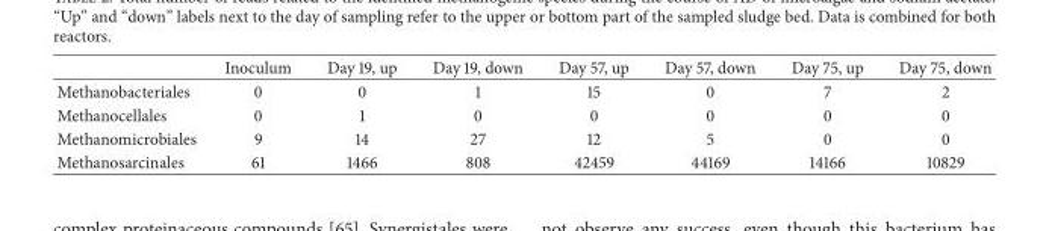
<table><thead><tr><td></td><td>Inoculum</td><td>Day 19, up</td><td>Day 19, down</td><td>Day 57, up</td><td>Day 57, down</td><td>Day 75, up</td><td>Day 75, down</td></tr></thead><tbody><tr><td>Methanobacteriales</td><td>0</td><td>0</td><td>1</td><td>15</td><td>0</td><td>7</td><td>2</td></tr><tr><td>Methanocellales</td><td>0</td><td>1</td><td>0</td><td>0</td><td>0</td><td>0</td><td>0</td></tr><tr><td>Methanomicrobiales</td><td>9</td><td>14</td><td>27</td><td>12</td><td>5</td><td>0</td><td>0</td></tr><tr><td>Methanosarcinales</td><td>61</td><td>1466</td><td>808</td><td>42459</td><td>44169</td><td>14166</td><td>10829</td></tr></tbody></table>